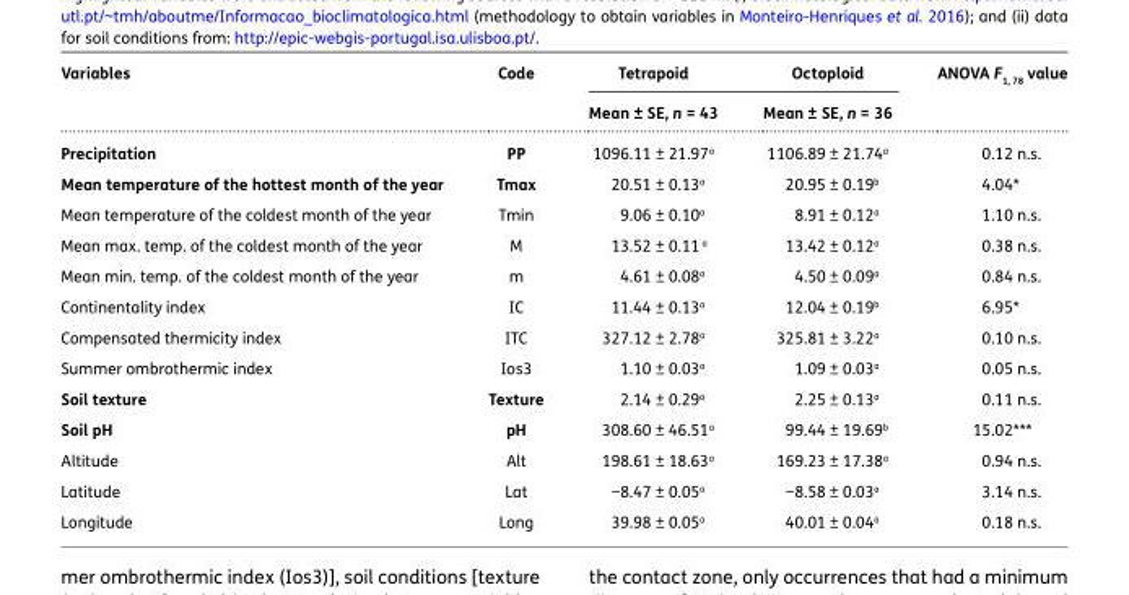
<table><thead><tr><td rowspan="2">Variables</td><td rowspan="2">Code</td><td rowspan="2">Tetrapoid Mean ± SE, n = 43</td><td rowspan="2">Octoploid Mean ± SE, n = 36</td><td rowspan="2">ANOVA F<sub>1, 78</sub> value</td></tr><tr></tr></thead><tbody><tr><td>Precipitation</td><td>PP</td><td>1096.11 ± 21.97<sup>a</sup></td><td>1106.89 ± 21.74<sup>a</sup></td><td>0.12 n.s.</td></tr><tr><td>Mean temperature of the hottest month of the year</td><td>Tmax</td><td>20.51 ± 0.13<sup>a</sup></td><td>20.95 ± 0.19<sup>b</sup></td><td>4.04*</td></tr><tr><td>Mean temperature of the coldest month of the year</td><td>Tmin</td><td>9.06 ± 0.10<sup>a</sup></td><td>8.91 ± 0.12<sup>a</sup></td><td>1.10 n.s.</td></tr><tr><td>Mean max. temp. of the coldest month of the year</td><td>M</td><td>13.52 ± 0.11 <sup>a</sup></td><td>13.42 ± 0.12<sup>a</sup></td><td>0.38 n.s.</td></tr><tr><td>Mean min. temp. of the coldest month of the year</td><td>m</td><td>4.61 ± 0.08<sup>a</sup></td><td>4.50 ± 0.09<sup>a</sup></td><td>0.84 n.s.</td></tr><tr><td>Continentality index</td><td>IC</td><td>11.44 ± 0.13<sup>a</sup></td><td>12.04 ± 0.19<sup>b</sup></td><td>6.95*</td></tr><tr><td>Compensated thermicity index</td><td>ITC</td><td>327.12 ± 2.78<sup>a</sup></td><td>325.81 ± 3.22<sup>a</sup></td><td>0.10 n.s.</td></tr><tr><td>Summer ombrothermic index</td><td>Ios3</td><td>1.10 ± 0.03<sup>a</sup></td><td>1.09 ± 0.03<sup>a</sup></td><td>0.05 n.s.</td></tr><tr><td>Soil texture</td><td>Texture</td><td>2.14 ± 0.29<sup>a</sup></td><td>2.25 ± 0.13<sup>a</sup></td><td>0.11 n.s.</td></tr><tr><td>Soil pH</td><td>pH</td><td>308.60 ± 46.51<sup>a</sup></td><td>99.44 ± 19.69<sup>b</sup></td><td>15.02***</td></tr><tr><td>Altitude</td><td>Alt</td><td>198.61 ± 18.63<sup>a</sup></td><td>169.23 ± 17.38<sup>a</sup></td><td>0.94 n.s.</td></tr><tr><td>Latitude</td><td>Lat</td><td>−8.47 ± 0.05<sup>a</sup></td><td>−8.58 ± 0.03<sup>a</sup></td><td>3.14 n.s.</td></tr><tr><td>Longitude</td><td>Long</td><td>39.98 ± 0.05<sup>a</sup></td><td>40.01 ± 0.04<sup>a</sup></td><td>0.18 n.s.</td></tr></tbody></table>